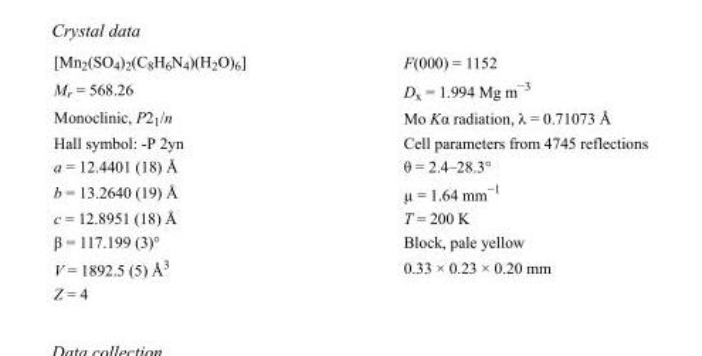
<table><tbody><tr><td>[Mn<sub>2</sub>(SO<sub>4</sub>)<sub>2</sub>(C<sub>8</sub>H<sub>6</sub>N<sub>4</sub>)(H<sub>2</sub>O)<sub>6</sub>]</td><td>F(000) = 1152</td></tr><tr><td>M<sub>r</sub> = 568.26</td><td>D<sub>x</sub> = 1.994 Mg m<sup>−3</sup></td></tr><tr><td>Monoclinic, P2<sub>1</sub>/n</td><td>Mo Kα radiation, λ = 0.71073 Å</td></tr><tr><td>Hall symbol: -P 2yn</td><td>Cell parameters from 4745 reflections</td></tr><tr><td>a = 12.4401 (18) Å</td><td>θ = 2.4–28.3°</td></tr><tr><td>b = 13.2640 (19) Å</td><td>µ = 1.64 mm<sup>−1</sup></td></tr><tr><td>c = 12.8951 (18) Å</td><td>T = 200 K</td></tr><tr><td>β = 117.199 (3)°</td><td>Block, pale yellow</td></tr><tr><td>V = 1892.5 (5) Å<sup>3</sup></td><td>0.33 × 0.23 × 0.20 mm</td></tr><tr><td>Z = 4</td><td></td></tr></tbody></table>